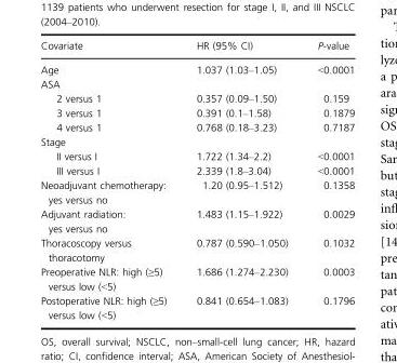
<table><thead><tr><td>Covariate</td><td>HR (95% CI)</td><td>P-value</td></tr></thead><tbody><tr><td>Age</td><td>1.037 (1.03–1.05)</td><td>&lt;0.0001</td></tr><tr><td colspan="3">ASA</td></tr><tr><td>2 versus 1</td><td>0.357 (0.09–1.50)</td><td>0.159</td></tr><tr><td>3 versus 1</td><td>0.391 (0.1–1.58)</td><td>0.1879</td></tr><tr><td>4 versus 1</td><td>0.768 (0.18–3.23)</td><td>0.7187</td></tr><tr><td colspan="3">Stage</td></tr><tr><td>II versus I</td><td>1.722 (1.34–2.2)</td><td>&lt;0.0001</td></tr><tr><td>III versus I</td><td>2.339 (1.8–3.04)</td><td>&lt;0.0001</td></tr><tr><td>Neoadjuvant chemotherapy: yes versus no</td><td>1.20 (0.95–1.512)</td><td>0.1358</td></tr><tr><td>Adjuvant radiation: yes versus no</td><td>1.483 (1.15–1.922)</td><td>0.0029</td></tr><tr><td>Thoracoscopy versus thoracotomy</td><td>0.787 (0.590–1.050)</td><td>0.1032</td></tr><tr><td>Preoperative NLR: high (≥5) versus low (&lt;5)</td><td>1.686 (1.274–2.230)</td><td>0.0003</td></tr><tr><td>Postoperative NLR: high (≥5) versus low (&lt;5)</td><td>0.841 (0.654–1.083)</td><td>0.1796</td></tr></tbody></table>